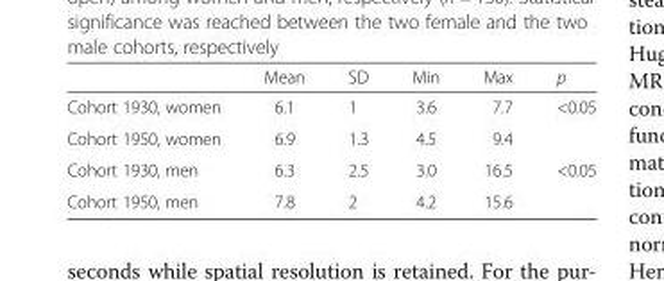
<table><thead><tr><td></td><td>Mean</td><td>SD</td><td>Min</td><td>Max</td><td>p</td></tr></thead><tbody><tr><td>Cohort 1930, women</td><td>6.1</td><td>1</td><td>3.6</td><td>7.7</td><td rowspan="2">&lt;0.05</td></tr><tr><td>Cohort 1950, women</td><td>6.9</td><td>1.3</td><td>4.5</td><td>9.4</td></tr><tr><td>Cohort 1930, men</td><td>6.3</td><td>2.5</td><td>3.0</td><td>16.5</td><td rowspan="2">&lt;0.05</td></tr><tr><td>Cohort 1950, men</td><td>7.8</td><td>2</td><td>4.2</td><td>15.6</td></tr></tbody></table>